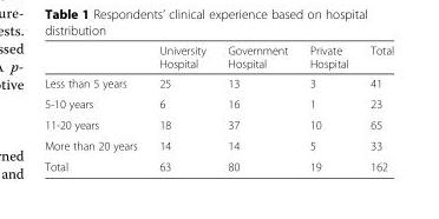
<table><thead><tr><td></td><td>University Hospital</td><td>Government Hospital</td><td>Private Hospital</td><td>Total</td></tr></thead><tbody><tr><td>Less than 5 years</td><td>25</td><td>13</td><td>3</td><td>41</td></tr><tr><td>5-10 years</td><td>6</td><td>16</td><td>1</td><td>23</td></tr><tr><td>11-20 years</td><td>18</td><td>37</td><td>10</td><td>65</td></tr><tr><td>More than 20 years</td><td>14</td><td>14</td><td>5</td><td>33</td></tr><tr><td>Total</td><td>63</td><td>80</td><td>19</td><td>162</td></tr></tbody></table>